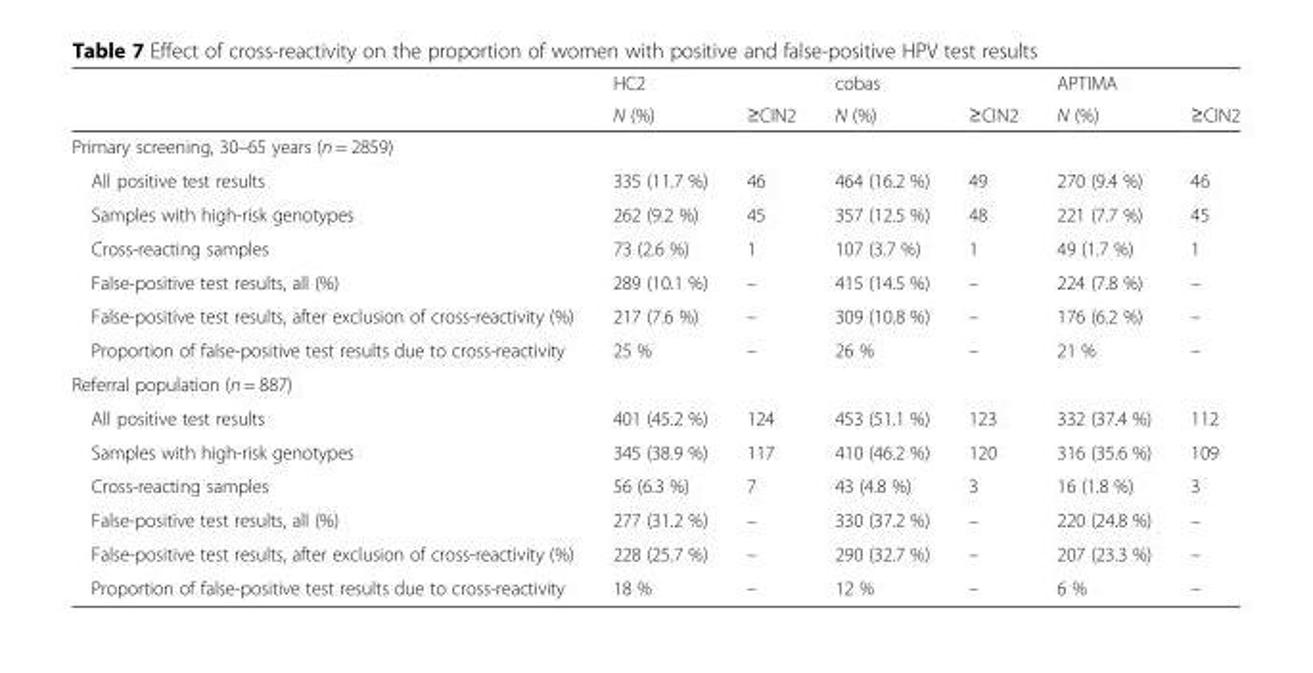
<table><thead><tr><td rowspan="2"></td><td rowspan="2">HC2 N (%)</td><td rowspan="2">≥CIN2</td><td rowspan="2">cobas N (%)</td><td rowspan="2">≥CIN2</td><td rowspan="2">APTIMA N (%)</td><td rowspan="2">≥CIN2</td></tr><tr></tr></thead><tbody><tr><td colspan="7">Primary screening, 30–65 years (n = 2859)</td></tr><tr><td>All positive test results</td><td>335 (11.7 %)</td><td>46</td><td>464 (16.2 %)</td><td>49</td><td>270 (9.4 %)</td><td>46</td></tr><tr><td>Samples with high-risk genotypes</td><td>262 (9.2 %)</td><td>45</td><td>357 (12.5 %)</td><td>48</td><td>221 (7.7 %)</td><td>45</td></tr><tr><td>Cross-reacting samples</td><td>73 (2.6 %)</td><td>1</td><td>107 (3.7 %)</td><td>1</td><td>49 (1.7 %)</td><td>1</td></tr><tr><td>False-positive test results, all (%)</td><td>289 (10.1 %)</td><td>–</td><td>415 (14.5 %)</td><td>–</td><td>224 (7.8 %)</td><td>–</td></tr><tr><td>False-positive test results, after exclusion of cross-reactivity (%)</td><td>217 (7.6 %)</td><td>–</td><td>309 (10.8 %)</td><td>–</td><td>176 (6.2 %)</td><td>–</td></tr><tr><td>Proportion of false-positive test results due to cross-reactivity</td><td>25 %</td><td>–</td><td>26 %</td><td>–</td><td>21 %</td><td>–</td></tr><tr><td colspan="7">Referral population (n = 887)</td></tr><tr><td>All positive test results</td><td>401 (45.2 %)</td><td>124</td><td>453 (51.1 %)</td><td>123</td><td>332 (37.4 %)</td><td>112</td></tr><tr><td>Samples with high-risk genotypes</td><td>345 (38.9 %)</td><td>117</td><td>410 (46.2 %)</td><td>120</td><td>316 (35.6 %)</td><td>109</td></tr><tr><td>Cross-reacting samples</td><td>56 (6.3 %)</td><td>7</td><td>43 (4.8 %)</td><td>3</td><td>16 (1.8 %)</td><td>3</td></tr><tr><td>False-positive test results, all (%)</td><td>277 (31.2 %)</td><td>–</td><td>330 (37.2 %)</td><td>–</td><td>220 (24.8 %)</td><td>–</td></tr><tr><td>False-positive test results, after exclusion of cross-reactivity (%)</td><td>228 (25.7 %)</td><td>–</td><td>290 (32.7 %)</td><td>–</td><td>207 (23.3 %)</td><td>–</td></tr><tr><td>Proportion of false-positive test results due to cross-reactivity</td><td>18 %</td><td>–</td><td>12 %</td><td>–</td><td>6 %</td><td>–</td></tr></tbody></table>